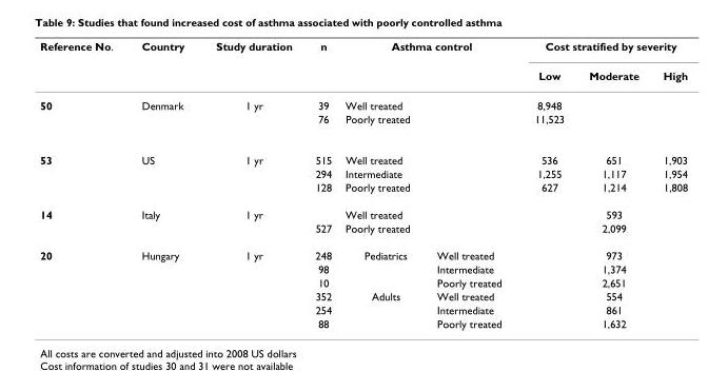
<table><thead><tr><td rowspan="2">Reference No.</td><td rowspan="2">Country</td><td rowspan="2">Study duration</td><td rowspan="2">n</td><td colspan="2">Asthma control</td><td colspan="3">Cost stratified by severity</td></tr><tr><td></td><td></td><td>Low</td><td>Moderate</td><td>High</td></tr></thead><tbody><tr><td rowspan="2">50</td><td>Denmark</td><td>1 yr</td><td>39</td><td>Well treated</td><td></td><td>8,948</td><td></td><td></td></tr><tr><td></td><td></td><td>76</td><td>Poorly treated</td><td></td><td>11,523</td><td></td><td></td></tr><tr><td rowspan="3">53</td><td>US</td><td>1 yr</td><td>515</td><td>Well treated</td><td></td><td>536</td><td>651</td><td>1,903</td></tr><tr><td></td><td></td><td>294</td><td>Intermediate</td><td></td><td>1,255</td><td>1,117</td><td>1,954</td></tr><tr><td></td><td></td><td>128</td><td>Poorly treated</td><td></td><td>627</td><td>1,214</td><td>1,808</td></tr><tr><td rowspan="2">14</td><td>Italy</td><td>1 yr</td><td></td><td>Well treated</td><td></td><td></td><td>593</td><td></td></tr><tr><td></td><td></td><td>527</td><td>Poorly treated</td><td></td><td></td><td>2,099</td><td></td></tr><tr><td rowspan="6">20</td><td>Hungary</td><td>1 yr</td><td>248</td><td>Pediatrics</td><td>Well treated</td><td></td><td>973</td><td></td></tr><tr><td></td><td></td><td>98</td><td></td><td>Intermediate</td><td></td><td>1,374</td><td></td></tr><tr><td></td><td></td><td>10</td><td></td><td>Poorly treated</td><td></td><td>2,651</td><td></td></tr><tr><td></td><td></td><td>352</td><td>Adults</td><td>Well treated</td><td></td><td>554</td><td></td></tr><tr><td></td><td></td><td>254</td><td></td><td>Intermediate</td><td></td><td>861</td><td></td></tr><tr><td></td><td></td><td>88</td><td></td><td>Poorly treated</td><td></td><td>1,632</td><td></td></tr></tbody></table>